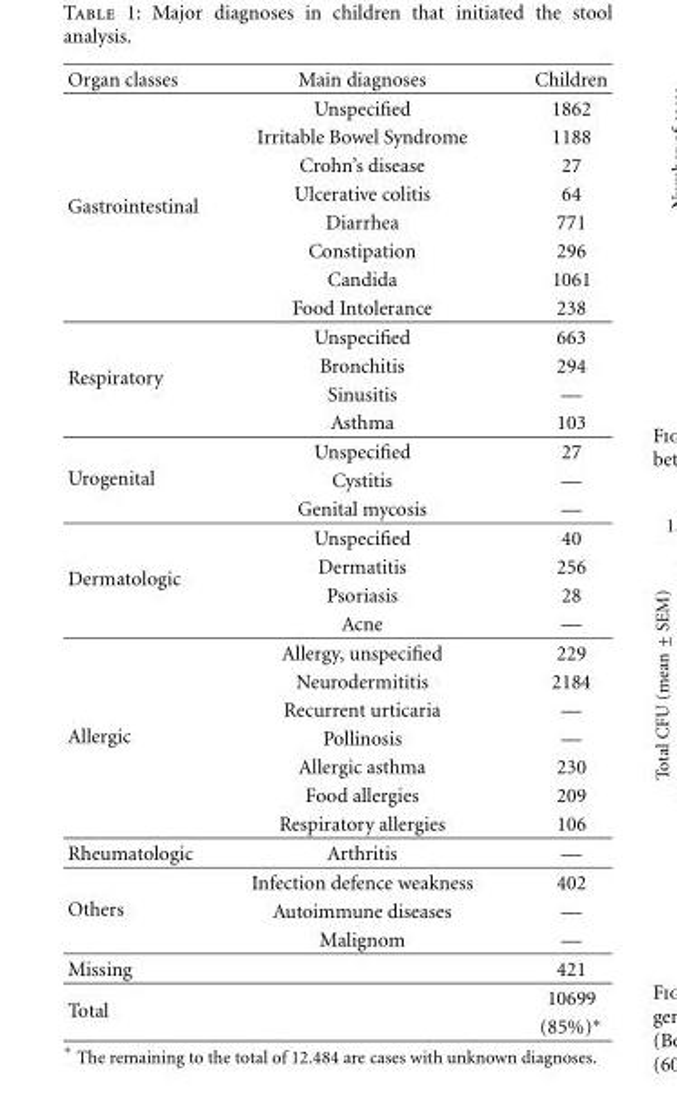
<table><thead><tr><td>Organ classes</td><td>Main diagnoses</td><td>Children</td></tr></thead><tbody><tr><td rowspan="8">Gastrointestinal</td><td>Unspecified</td><td>1862</td></tr><tr><td>Irritable Bowel Syndrome</td><td>1188</td></tr><tr><td>Crohn’s disease</td><td>27</td></tr><tr><td>Ulcerative colitis</td><td>64</td></tr><tr><td>Diarrhea</td><td>771</td></tr><tr><td>Constipation</td><td>296</td></tr><tr><td>Candida</td><td>1061</td></tr><tr><td>Food Intolerance</td><td>238</td></tr><tr><td rowspan="4">Respiratory</td><td>Unspecified</td><td>663</td></tr><tr><td>Bronchitis</td><td>294</td></tr><tr><td>Sinusitis</td><td>—</td></tr><tr><td>Asthma</td><td>103</td></tr><tr><td rowspan="3">Urogenital</td><td>Unspecified</td><td>27</td></tr><tr><td>Cystitis</td><td>—</td></tr><tr><td>Genital mycosis</td><td>—</td></tr><tr><td rowspan="4">Dermatologic</td><td>Unspecified</td><td>40</td></tr><tr><td>Dermatitis</td><td>256</td></tr><tr><td>Psoriasis</td><td>28</td></tr><tr><td>Acne</td><td>—</td></tr><tr><td rowspan="7">Allergic</td><td>Allergy, unspecified</td><td>229</td></tr><tr><td>Neurodermititis</td><td>2184</td></tr><tr><td>Recurrent urticaria</td><td>—</td></tr><tr><td>Pollinosis</td><td>—</td></tr><tr><td>Allergic asthma</td><td>230</td></tr><tr><td>Food allergies</td><td>209</td></tr><tr><td>Respiratory allergies</td><td>106</td></tr><tr><td>Rheumatologic</td><td>Arthritis</td><td>—</td></tr><tr><td rowspan="3">Others</td><td>Infection defence weakness</td><td>402</td></tr><tr><td>Autoimmune diseases</td><td>—</td></tr><tr><td>Malignom</td><td>—</td></tr><tr><td>Missing</td><td></td><td>421</td></tr><tr><td rowspan="2">Total</td><td></td><td>10699</td></tr><tr><td></td><td>(85%)∗</td></tr></tbody></table>